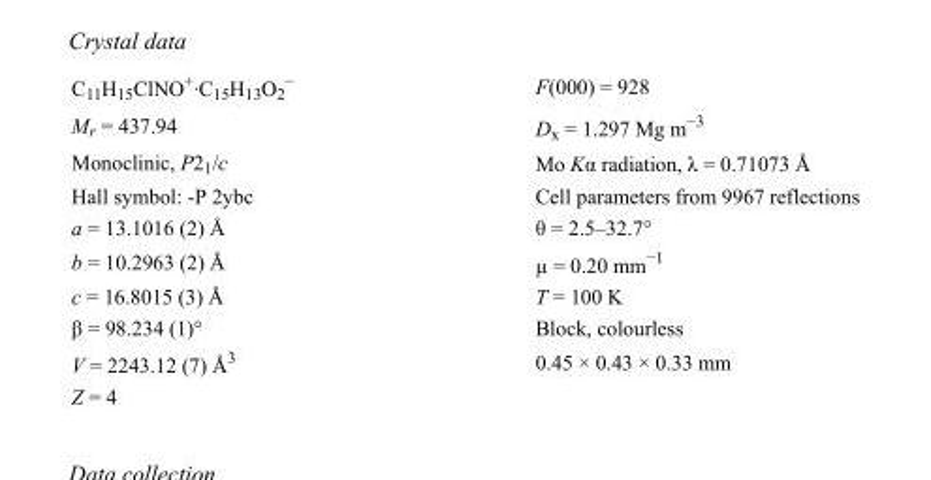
<table><tbody><tr><td>C<sub>11</sub>H<sub>15</sub>ClNO<sup>+</sup>·C<sub>15</sub>H<sub>13</sub>O<sub>2</sub> <sup>−</sup></td><td>F(000) = 928</td></tr><tr><td>M<sub>r</sub> = 437.94</td><td>D<sub>x</sub> = 1.297 Mg m<sup>−3</sup></td></tr><tr><td>Monoclinic, P2<sub>1</sub>/c</td><td>Mo Kα radiation, λ = 0.71073 Å</td></tr><tr><td>Hall symbol: -P 2ybc</td><td>Cell parameters from 9967 reflections</td></tr><tr><td>a = 13.1016 (2) Å</td><td>θ = 2.5–32.7°</td></tr><tr><td>b = 10.2963 (2) Å</td><td>µ = 0.20 mm<sup>−1</sup></td></tr><tr><td>c = 16.8015 (3) Å</td><td>T = 100 K</td></tr><tr><td>β = 98.234 (1)°</td><td>Block, colourless</td></tr><tr><td>V = 2243.12 (7) Å<sup>3</sup></td><td>0.45 × 0.43 × 0.33 mm</td></tr><tr><td>Z = 4</td><td></td></tr></tbody></table>